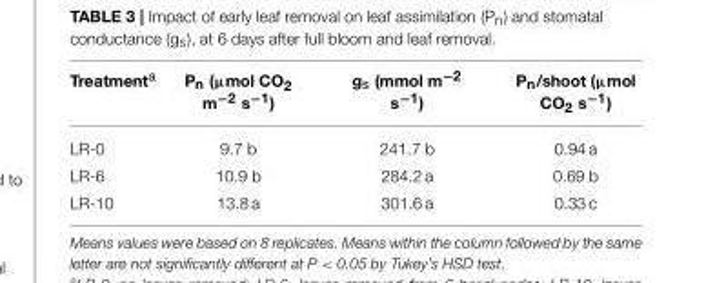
<table><thead><tr><td>Treatment<sup>a</sup></td><td>P<sub>n</sub> (µmol CO<sub>2</sub> m<sup>−2</sup> s<sup>−1</sup>)</td><td>g<sub>s</sub> (mmol m<sup>−2</sup> s<sup>−1</sup>)</td><td>P<sub>n</sub>/shoot (µmol CO<sub>2</sub> s<sup>−1</sup>)</td></tr></thead><tbody><tr><td>LR-0</td><td>9.7 b</td><td>241.7 b</td><td>0.94 a</td></tr><tr><td>LR-6</td><td>10.9 b</td><td>284.2 a</td><td>0.69 b</td></tr><tr><td>LR-10</td><td>13.8 a</td><td>301.6 a</td><td>0.33 c</td></tr></tbody></table>